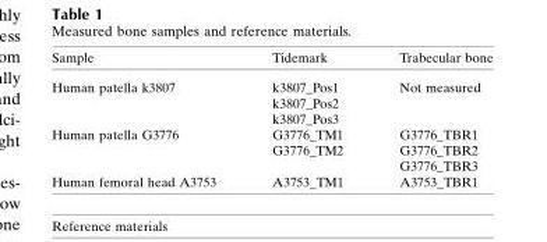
<table><thead><tr><td>Sample</td><td>Tidemark</td><td>Trabecular bone</td></tr></thead><tbody><tr><td rowspan="3">Human patella k3807</td><td>k3807_Pos1</td><td>Not measured</td></tr><tr><td>k3807_Pos2</td><td></td></tr><tr><td>k3807_Pos3</td><td></td></tr><tr><td rowspan="3">Human patella G3776</td><td>G3776_TM1</td><td>G3776_TBR1</td></tr><tr><td>G3776_TM2</td><td>G3776_TBR2</td></tr><tr><td></td><td>G3776_TBR3</td></tr><tr><td>Human femoral head A3753</td><td>A3753_TM1</td><td>A3753_TBR1</td></tr></tbody></table>